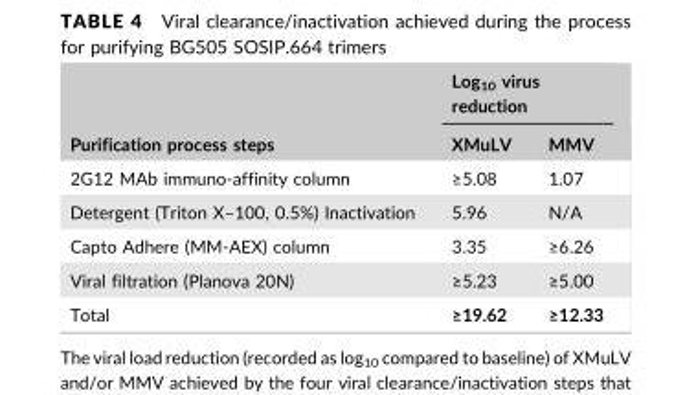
<table><thead><tr><td rowspan="2">Purification process steps</td><td colspan="2">Log<sub>10</sub> virus reduction</td></tr><tr><td>XMuLV</td><td>MMV</td></tr></thead><tbody><tr><td>2G12 MAb immuno-affinity column</td><td>≥5.08</td><td>1.07</td></tr><tr><td>Detergent (Triton X–100, 0.5%) Inactivation</td><td>5.96</td><td>N/A</td></tr><tr><td>Capto Adhere (MM-AEX) column</td><td>3.35</td><td>≥6.26</td></tr><tr><td>Viral filtration (Planova 20N)</td><td>≥5.23</td><td>≥5.00</td></tr><tr><td>Total</td><td>≥19.62</td><td>≥12.33</td></tr></tbody></table>